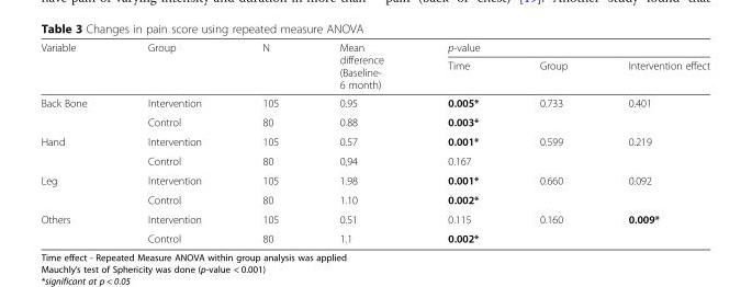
<table><thead><tr><td rowspan="2">Variable</td><td rowspan="2">Group</td><td rowspan="2">N</td><td rowspan="2">Mean difference (Baseline- 6 month)</td><td colspan="3">p-value</td></tr><tr><td>Time</td><td>Group</td><td>Intervention effect</td></tr></thead><tbody><tr><td rowspan="2">Back Bone</td><td>Intervention</td><td>105</td><td>0.95</td><td>0.005*</td><td rowspan="2">0.733</td><td rowspan="2">0.401</td></tr><tr><td>Control</td><td>80</td><td>0.88</td><td>0.003*</td></tr><tr><td rowspan="2">Hand</td><td>Intervention</td><td>105</td><td>0.57</td><td>0.001*</td><td rowspan="2">0.599</td><td rowspan="2">0.219</td></tr><tr><td>Control</td><td>80</td><td>0,94</td><td>0.167</td></tr><tr><td rowspan="2">Leg</td><td>Intervention</td><td>105</td><td>1.98</td><td>0.001*</td><td rowspan="2">0.660</td><td rowspan="2">0.092</td></tr><tr><td>Control</td><td>80</td><td>1.10</td><td>0.002*</td></tr><tr><td rowspan="2">Others</td><td>Intervention</td><td>105</td><td>0.51</td><td>0.115</td><td rowspan="2">0.160</td><td rowspan="2">0.009*</td></tr><tr><td>Control</td><td>80</td><td>1.1</td><td>0.002*</td></tr></tbody></table>